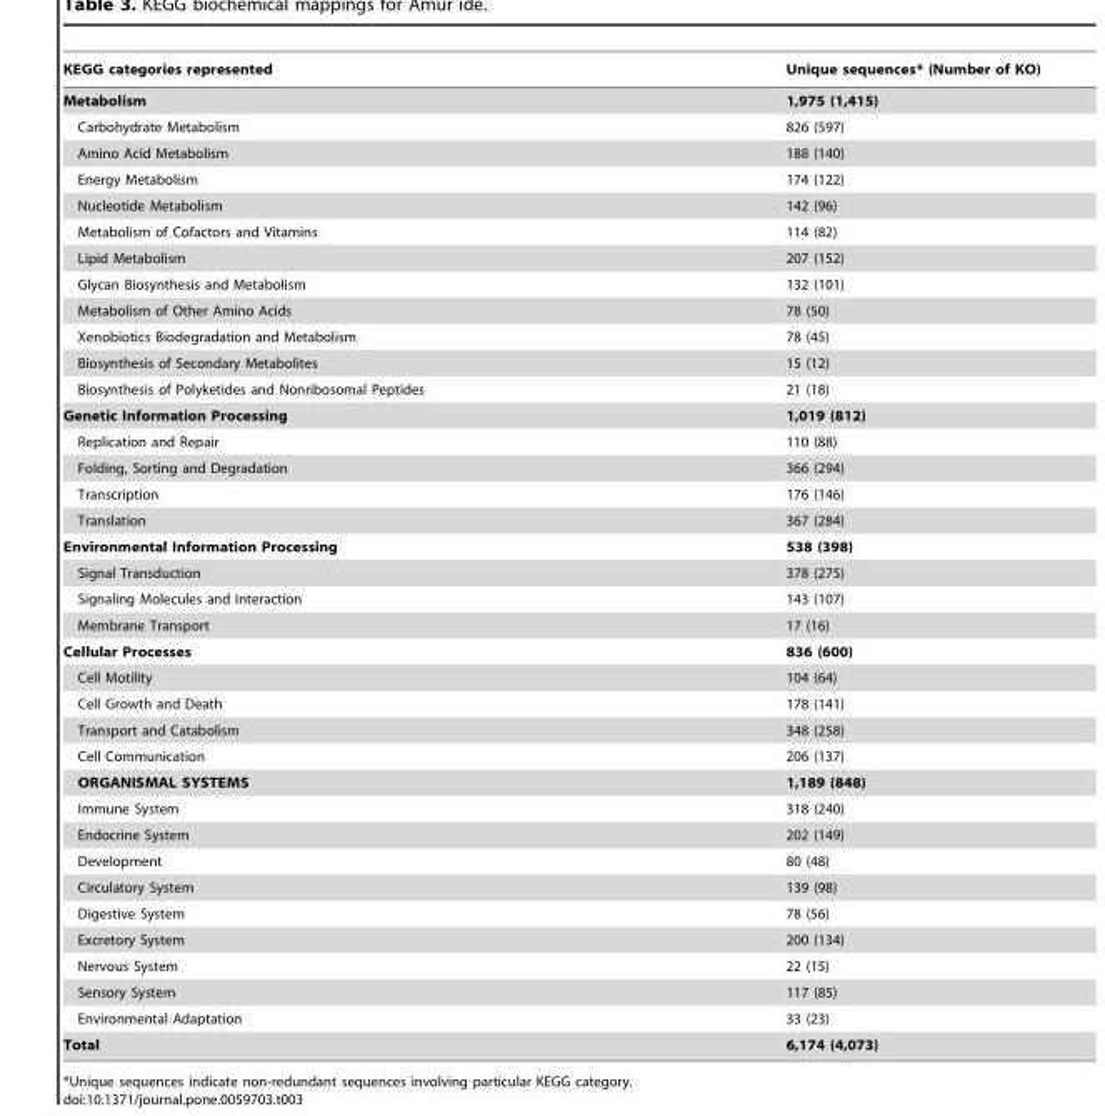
<table><thead><tr><td>KEGG categories represented</td><td>Unique sequences* (Number of KO)</td></tr></thead><tbody><tr><td>Metabolism</td><td>1,975 (1,415)</td></tr><tr><td>Carbohydrate Metabolism</td><td>826 (597)</td></tr><tr><td>Amino Acid Metabolism</td><td>188 (140)</td></tr><tr><td>Energy Metabolism</td><td>174 (122)</td></tr><tr><td>Nucleotide Metabolism</td><td>142 (96)</td></tr><tr><td>Metabolism of Cofactors and Vitamins</td><td>114 (82)</td></tr><tr><td>Lipid Metabolism</td><td>207 (152)</td></tr><tr><td>Glycan Biosynthesis and Metabolism</td><td>132 (101)</td></tr><tr><td>Metabolism of Other Amino Acids</td><td>78 (50)</td></tr><tr><td>Xenobiotics Biodegradation and Metabolism</td><td>78 (45)</td></tr><tr><td>Biosynthesis of Secondary Metabolites</td><td>15 (12)</td></tr><tr><td>Biosynthesis of Polyketides and Nonribosomal Peptides</td><td>21 (18)</td></tr><tr><td>Genetic Information Processing</td><td>1,019 (812)</td></tr><tr><td>Replication and Repair</td><td>110 (88)</td></tr><tr><td>Folding, Sorting and Degradation</td><td>366 (294)</td></tr><tr><td>Transcription</td><td>176 (146)</td></tr><tr><td>Translation</td><td>367 (284)</td></tr><tr><td>Environmental Information Processing</td><td>538 (398)</td></tr><tr><td>Signal Transduction</td><td>378 (275)</td></tr><tr><td>Signaling Molecules and Interaction</td><td>143 (107)</td></tr><tr><td>Membrane Transport</td><td>17 (16)</td></tr><tr><td>Cellular Processes</td><td>836 (600)</td></tr><tr><td>Cell Motility</td><td>104 (64)</td></tr><tr><td>Cell Growth and Death</td><td>178 (141)</td></tr><tr><td>Transport and Catabolism</td><td>348 (258)</td></tr><tr><td>Cell Communication</td><td>206 (137)</td></tr><tr><td>ORGANISMAL SYSTEMS</td><td>1,189 (848)</td></tr><tr><td>Immune System</td><td>318 (240)</td></tr><tr><td>Endocrine System</td><td>202 (149)</td></tr><tr><td>Development</td><td>80 (48)</td></tr><tr><td>Circulatory System</td><td>139 (98)</td></tr><tr><td>Digestive System</td><td>78 (56)</td></tr><tr><td>Excretory System</td><td>200 (134)</td></tr><tr><td>Nervous System</td><td>22 (15)</td></tr><tr><td>Sensory System</td><td>117 (85)</td></tr><tr><td>Environmental Adaptation</td><td>33 (23)</td></tr><tr><td>Total</td><td>6,174 (4,073)</td></tr></tbody></table>